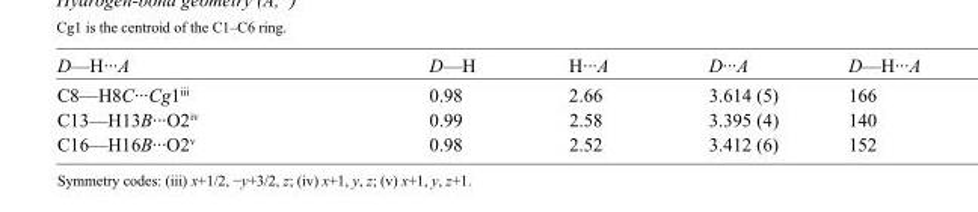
<table><tbody><tr><td>D—H···A</td><td>D—H</td><td>H···A</td><td>D···A</td><td>D—H···A</td></tr><tr><td>C8—H8C···Cg1<sup>iii</sup></td><td>0.98</td><td>2.66</td><td>3.614 (5)</td><td>166</td></tr><tr><td>C13—H13B···O2<sup>iv</sup></td><td>0.99</td><td>2.58</td><td>3.395 (4)</td><td>140</td></tr><tr><td>C16—H16B···O2<sup>v</sup></td><td>0.98</td><td>2.52</td><td>3.412 (6)</td><td>152</td></tr></tbody></table>